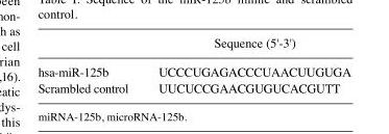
<table><thead><tr><td></td><td>Sequence (5&#x27;-3&#x27;)</td></tr></thead><tbody><tr><td>hsa-miR-125b</td><td>UCCCUGAGACCCUAACUUGUGA</td></tr><tr><td>Scrambled control</td><td>UUCUCCGAACGUGUCACGUTT</td></tr></tbody></table>